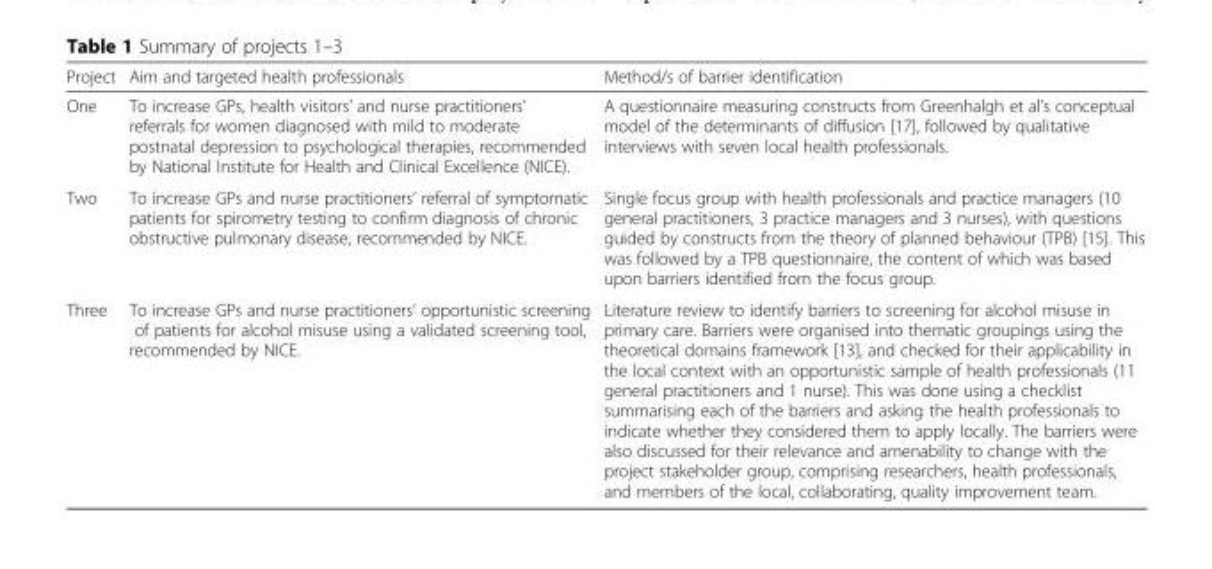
<table><thead><tr><td>Project</td><td>Aim and targeted health professionals</td><td>Method/s of barrier identification</td></tr></thead><tbody><tr><td>One</td><td>To increase GPs, health visitors’ and nurse practitioners’ referrals for women diagnosed with mild to moderate postnatal depression to psychological therapies, recommended by National Institute for Health and Clinical Excellence (NICE).</td><td>A questionnaire measuring constructs from Greenhalgh et al’s conceptual model of the determinants of diffusion [17], followed by qualitative interviews with seven local health professionals.</td></tr><tr><td>Two</td><td>To increase GPs and nurse practitioners’ referral of symptomatic patients for spirometry testing to confirm diagnosis of chronic obstructive pulmonary disease, recommended by NICE.</td><td>Single focus group with health professionals and practice managers (10 general practitioners, 3 practice managers and 3 nurses), with questions guided by constructs from the theory of planned behaviour (TPB) [15]. This was followed by a TPB questionnaire, the content of which was based upon barriers identified from the focus group.</td></tr><tr><td>Three</td><td>To increase GPs and nurse practitioners’ opportunistic screening of patients for alcohol misuse using a validated screening tool, recommended by NICE.</td><td>Literature review to identify barriers to screening for alcohol misuse in primary care. Barriers were organised into thematic groupings using the theoretical domains framework [13], and checked for their applicability in the local context with an opportunistic sample of health professionals (11 general practitioners and 1 nurse). This was done using a checklist summarising each of the barriers and asking the health professionals to indicate whether they considered them to apply locally. The barriers were also discussed for their relevance and amenability to change with the project stakeholder group, comprising researchers, health professionals, and members of the local, collaborating, quality improvement team.</td></tr></tbody></table>